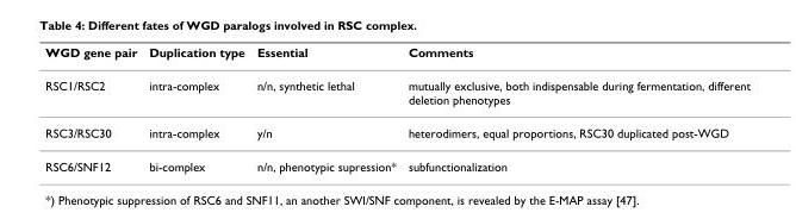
<table><thead><tr><td>WGD gene pair</td><td>Duplication type</td><td>Essential</td><td>Comments</td></tr></thead><tbody><tr><td>RSC1/RSC2</td><td>intra-complex</td><td>n/n, synthetic lethal</td><td>mutually exclusive, both indispensable during fermentation, different deletion phenotypes</td></tr><tr><td>RSC3/RSC30</td><td>intra-complex</td><td>y/n</td><td>heterodimers, equal proportions, RSC30 duplicated post-WGD</td></tr><tr><td>RSC6/SNF12</td><td>bi-complex</td><td>n/n, phenotypic supression*</td><td>subfunctionalization</td></tr></tbody></table>